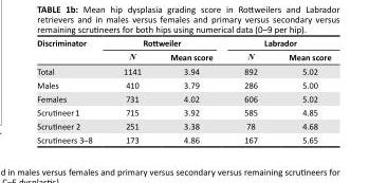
<table><thead><tr><td rowspan="2">Discriminator</td><td colspan="2">Rottweiler</td><td colspan="2">Labrador</td></tr><tr><td>N</td><td>Mean score</td><td>N</td><td>Mean score</td></tr></thead><tbody><tr><td>Total</td><td>1141</td><td>3.94</td><td>892</td><td>5.02</td></tr><tr><td>Males</td><td>410</td><td>3.79</td><td>286</td><td>5.00</td></tr><tr><td>Females</td><td>731</td><td>4.02</td><td>606</td><td>5.02</td></tr><tr><td>Scrutineer 1</td><td>715</td><td>3.92</td><td>585</td><td>4.85</td></tr><tr><td>Scrutineer 2</td><td>251</td><td>3.38</td><td>78</td><td>4.68</td></tr><tr><td>Scrutineers 3–8</td><td>173</td><td>4.86</td><td>167</td><td>5.65</td></tr></tbody></table>